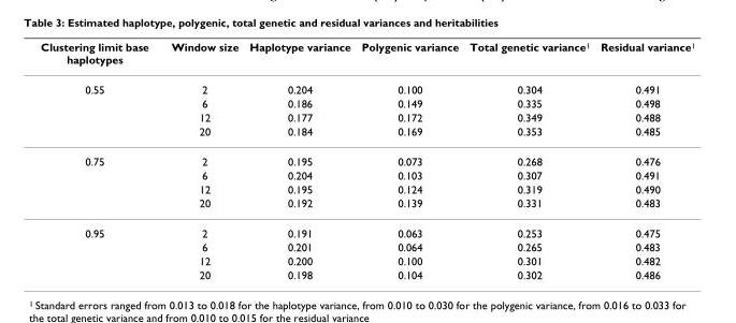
<table><thead><tr><td>Clustering limit base haplotypes</td><td>Window size</td><td>Haplotype variance</td><td>Polygenic variance</td><td>Total genetic variance<sup>1</sup></td><td>Residual variance<sup>1</sup></td></tr></thead><tbody><tr><td rowspan="4">0.55</td><td>2</td><td>0.204</td><td>0.100</td><td>0.304</td><td>0.491</td></tr><tr><td>6</td><td>0.186</td><td>0.149</td><td>0.335</td><td>0.498</td></tr><tr><td>12</td><td>0.177</td><td>0.172</td><td>0.349</td><td>0.488</td></tr><tr><td>20</td><td>0.184</td><td>0.169</td><td>0.353</td><td>0.485</td></tr><tr><td rowspan="4">0.75</td><td>2</td><td>0.195</td><td>0.073</td><td>0.268</td><td>0.476</td></tr><tr><td>6</td><td>0.204</td><td>0.103</td><td>0.307</td><td>0.491</td></tr><tr><td>12</td><td>0.195</td><td>0.124</td><td>0.319</td><td>0.490</td></tr><tr><td>20</td><td>0.192</td><td>0.139</td><td>0.331</td><td>0.483</td></tr><tr><td rowspan="4">0.95</td><td>2</td><td>0.191</td><td>0.063</td><td>0.253</td><td>0.475</td></tr><tr><td>6</td><td>0.201</td><td>0.064</td><td>0.265</td><td>0.483</td></tr><tr><td>12</td><td>0.200</td><td>0.100</td><td>0.301</td><td>0.482</td></tr><tr><td>20</td><td>0.198</td><td>0.104</td><td>0.302</td><td>0.486</td></tr></tbody></table>